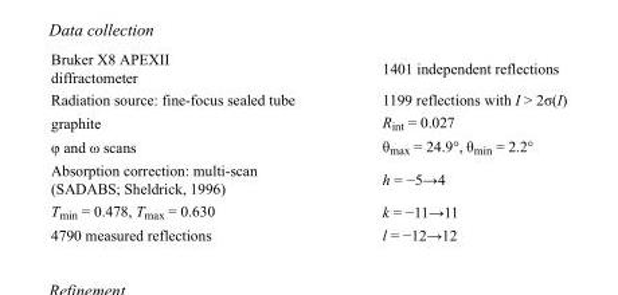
<table><tbody><tr><td>Bruker X8 APEXII diffractometer</td><td>1401 independent reflections</td></tr><tr><td>Radiation source: fine-focus sealed tube</td><td>1199 reflections with I &gt; 2σ(I)</td></tr><tr><td>graphite</td><td>R<sub>int</sub> = 0.027</td></tr><tr><td>φ and ω scans</td><td>θ<sub>max</sub> = 24.9°, θ<sub>min</sub> = 2.2°</td></tr><tr><td>Absorption correction: multi-scan (SADABS; Sheldrick, 1996)</td><td>h = −5→4</td></tr><tr><td>T<sub>min</sub> = 0.478, T<sub>max</sub> = 0.630</td><td>k = −11→11</td></tr><tr><td>4790 measured reflections</td><td>l = −12→12</td></tr></tbody></table>